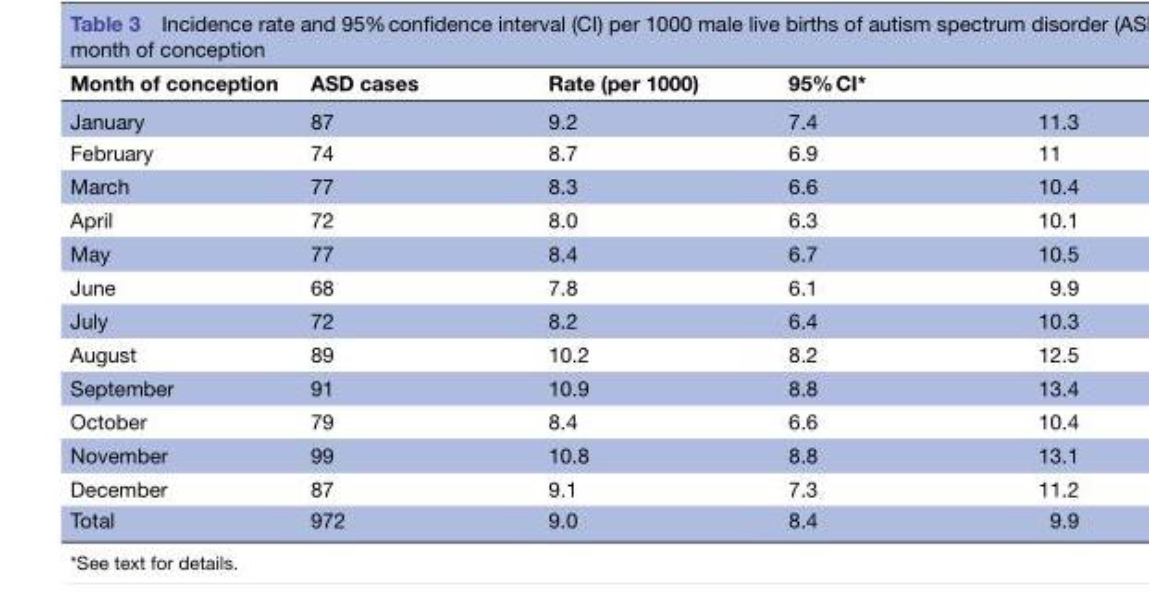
<table><thead><tr><td rowspan="2">Month of conception January</td><td rowspan="2">ASD cases 87</td><td rowspan="2">Rate (per 1000) 9.2</td><td colspan="2">95% CI*</td></tr><tr><td>7.4</td><td>11.3</td></tr></thead><tbody><tr><td>February</td><td>74</td><td>8.7</td><td>6.9</td><td>11</td></tr><tr><td>March</td><td>77</td><td>8.3</td><td>6.6</td><td>10.4</td></tr><tr><td>April</td><td>72</td><td>8.0</td><td>6.3</td><td>10.1</td></tr><tr><td>May</td><td>77</td><td>8.4</td><td>6.7</td><td>10.5</td></tr><tr><td>June</td><td>68</td><td>7.8</td><td>6.1</td><td>9.9</td></tr><tr><td>July</td><td>72</td><td>8.2</td><td>6.4</td><td>10.3</td></tr><tr><td>August</td><td>89</td><td>10.2</td><td>8.2</td><td>12.5</td></tr><tr><td>September</td><td>91</td><td>10.9</td><td>8.8</td><td>13.4</td></tr><tr><td>October</td><td>79</td><td>8.4</td><td>6.6</td><td>10.4</td></tr><tr><td>November</td><td>99</td><td>10.8</td><td>8.8</td><td>13.1</td></tr><tr><td>December</td><td>87</td><td>9.1</td><td>7.3</td><td>11.2</td></tr><tr><td>Total</td><td>972</td><td>9.0</td><td>8.4</td><td>9.9</td></tr></tbody></table>